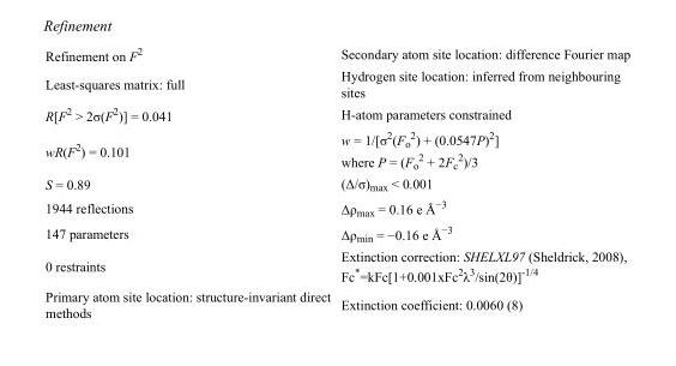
<table><tbody><tr><td>Refinement on F<sup>2</sup></td><td>Secondary atom site location: difference Fourier map</td></tr><tr><td>Least-squares matrix: full</td><td>Hydrogen site location: inferred from neighbouring sites</td></tr><tr><td>R[F<sup>2</sup> &gt; 2σ(F<sup>2</sup>)] = 0.041</td><td>H-atom parameters constrained</td></tr><tr><td>wR(F<sup>2</sup>) = 0.101</td><td>w = 1/[σ<sup>2</sup>(F<sub>o</sub> <sup>2</sup>) + (0.0547P)<sup>2</sup>] where P = (F<sub>o</sub> <sup>2</sup> + 2F<sub>c</sub> <sup>2</sup>)/3</td></tr><tr><td>S = 0.89</td><td>(Δ/σ)<sub>max</sub> &lt; 0.001</td></tr><tr><td>1944 reflections</td><td>Δρ<sub>max</sub> = 0.16 e Å<sup>−3</sup></td></tr><tr><td>147 parameters</td><td>Δρ<sub>min</sub> = −0.16 e Å<sup>−3</sup></td></tr><tr><td>0 restraints</td><td>Extinction correction: SHELXL97 (Sheldrick, 2008), Fc*=kFc[1+0.001xFc<sup>2</sup>λ<sup>3</sup>/sin(2θ)]<sup>-1/4</sup></td></tr><tr><td>Primary atom site location: structure-invariant direct methods</td><td>Extinction coefficient: 0.0060 (8)</td></tr></tbody></table>